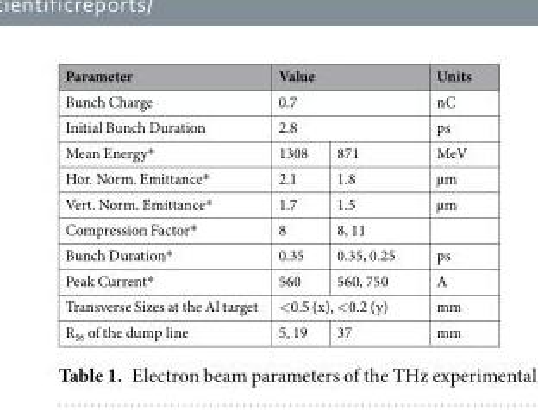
<table><thead><tr><td rowspan="4">Parameter Bunch Charge Initial Bunch Duration Mean Energy*</td><td rowspan="3" colspan="2">Value 0.7 2.8</td><td rowspan="4">Units nC ps MeV</td></tr><tr></tr><tr></tr><tr><td>1308</td><td>871</td></tr></thead><tbody><tr><td>Hor. Norm. Emittance*</td><td>2.1</td><td>1.8</td><td>µm</td></tr><tr><td>Vert. Norm. Emittance*</td><td>1.7</td><td>1.5</td><td>µm</td></tr><tr><td>Compression Factor*</td><td>8</td><td>8, 11</td><td></td></tr><tr><td>Bunch Duration*</td><td>0.35</td><td>0.35, 0.25</td><td>ps</td></tr><tr><td>Peak Current*</td><td>560</td><td>560, 750</td><td>A</td></tr><tr><td>Transverse Sizes at the Al target</td><td colspan="2">&lt;0.5 (x), &lt;0.2 (y)</td><td>mm</td></tr><tr><td>R<sub>56</sub> of the dump line</td><td>5, 19</td><td>37</td><td>mm</td></tr></tbody></table>